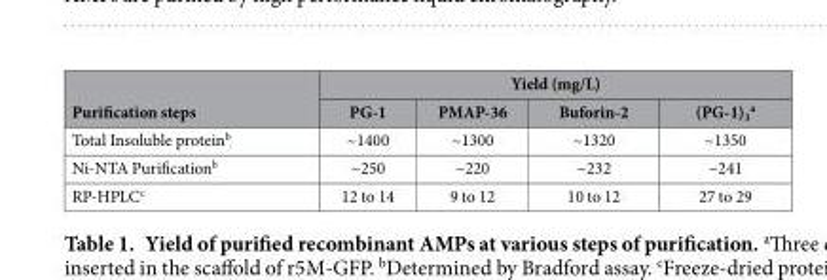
<table><thead><tr><td rowspan="2">Purification steps</td><td colspan="4">Yield (mg/L)</td></tr><tr><td>PG-1</td><td>PMAP-36</td><td>Buforin-2</td><td>(PG-1)<sub>3</sub> <sup>a</sup></td></tr></thead><tbody><tr><td>Total Insoluble protein<sup>b</sup></td><td>~1400</td><td>~1300</td><td>~1320</td><td>~1350</td></tr><tr><td>Ni-NTA Purification<sup>b</sup></td><td>~250</td><td>~220</td><td>~232</td><td>~241</td></tr><tr><td>RP-HPLC<sup>c</sup></td><td>12 to 14</td><td>9 to 12</td><td>10 to 12</td><td>27 to 29</td></tr></tbody></table>